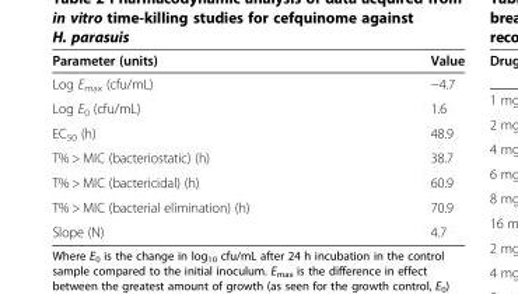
<table><thead><tr><td>Parameter (units)</td><td>Value</td></tr></thead><tbody><tr><td>Log E<sub>max</sub> (cfu/mL)</td><td>−4.7</td></tr><tr><td>Log E<sub>0</sub> (cfu/mL)</td><td>1.6</td></tr><tr><td>EC<sub>50</sub> (h)</td><td>48.9</td></tr><tr><td>T% &gt; MIC (bacteriostatic) (h)</td><td>38.7</td></tr><tr><td>T% &gt; MIC (bactericidal) (h)</td><td>60.9</td></tr><tr><td>T% &gt; MIC (bacterial elimination) (h)</td><td>70.9</td></tr><tr><td>Slope (N)</td><td>4.7</td></tr></tbody></table>